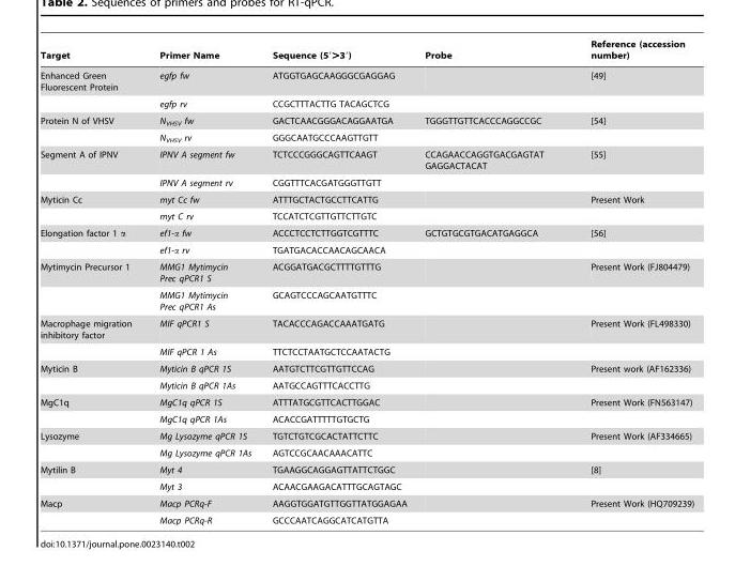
<table><thead><tr><td>Target</td><td>Primer Name</td><td>Sequence (59. .39)</td><td>Probe</td><td>Reference (accession number)</td></tr></thead><tbody><tr><td rowspan="2">Enhanced Green Fluorescent Protein</td><td>egfp fw</td><td>ATGGTGAGCAAGGGCGAGGAG</td><td></td><td>[49]</td></tr><tr><td>egfp rv</td><td>CCGCTTTACTTG TACAGCTCG</td><td></td><td></td></tr><tr><td rowspan="2">Protein N of VHSV</td><td>N<sub>VHSV</sub> fw</td><td>GACTCAACGGGACAGGAATGA</td><td>TGGGTTGTTCACCCAGGCCGC</td><td>[54]</td></tr><tr><td>N<sub>VHSV</sub> rv</td><td>GGGCAATGCCCAAGTTGTT</td><td></td><td></td></tr><tr><td rowspan="2">Segment A of IPNV</td><td>IPNV A segment fw</td><td>TCTCCCGGGCAGTTCAAGT</td><td>CCAGAACCAGGTGACGAGTAT GAGGACTACAT</td><td>[55]</td></tr><tr><td>IPNV A segment rv</td><td>CGGTTTCACGATGGGTTGTT</td><td></td><td></td></tr><tr><td rowspan="2">Myticin Cc</td><td>myt Cc fw</td><td>ATTTGCTACTGCCTTCATTG</td><td></td><td>Present Work</td></tr><tr><td>myt C rv</td><td>TCCATCTCGTTGTTCTTGTC</td><td></td><td></td></tr><tr><td rowspan="2">Elongation factor 1 α</td><td>ef1-α fw</td><td>ACCCTCCTCTTGGTCGTTTC</td><td>GCTGTGCGTGACATGAGGCA</td><td>[56]</td></tr><tr><td>ef1-α rv</td><td>TGATGACACCAACAGCAACA</td><td></td><td></td></tr><tr><td rowspan="2">Mytimycin Precursor 1</td><td>MMG1 Mytimycin Prec qPCR1 S</td><td>ACGGATGACGCTTTTGTTTG</td><td></td><td>Present Work (FJ804479)</td></tr><tr><td>MMG1 Mytimycin Prec qPCR1 As</td><td>GCAGTCCCAGCAATGTTTC</td><td></td><td></td></tr><tr><td rowspan="2">Macrophage migration inhibitory factor</td><td>MIF qPCR1 S</td><td>TACACCCAGACCAAATGATG</td><td></td><td>Present Work (FL498330)</td></tr><tr><td>MIF qPCR 1 As</td><td>TTCTCCTAATGCTCCAATACTG</td><td></td><td></td></tr><tr><td rowspan="2">Myticin B</td><td>Myticin B qPCR 1S</td><td>AATGTCTTCGTTGTTCCAG</td><td></td><td>Present work (AF162336)</td></tr><tr><td>Myticin B qPCR 1As</td><td>AATGCCAGTTTCACCTTG</td><td></td><td></td></tr><tr><td rowspan="2">MgC1q</td><td>MgC1q qPCR 1S</td><td>ATTTATGCGTTCACTTGGAC</td><td></td><td>Present Work (FN563147)</td></tr><tr><td>MgC1q qPCR 1As</td><td>ACACCGATTTTTGTGCTG</td><td></td><td></td></tr><tr><td rowspan="2">Lysozyme</td><td>Mg Lysozyme qPCR 1S</td><td>TGTCTGTCGCACTATTCTTC</td><td></td><td>Present Work (AF334665)</td></tr><tr><td>Mg Lysozyme qPCR 1As</td><td>AGTCCGCAACAAACATTC</td><td></td><td></td></tr><tr><td rowspan="2">Mytilin B</td><td>Myt 4</td><td>TGAAGGCAGGAGTTATTCTGGC</td><td></td><td>[8]</td></tr><tr><td>Myt 3</td><td>ACAACGAAGACATTTGCAGTAGC</td><td></td><td></td></tr><tr><td rowspan="2">Macp</td><td>Macp PCRq-F</td><td>AAGGTGGATGTTGGTTATGGAGAA</td><td></td><td>Present Work (HQ709239)</td></tr><tr><td>Macp PCRq-R</td><td>GCCCAATCAGGCATCATGTTA</td><td></td><td></td></tr></tbody></table>